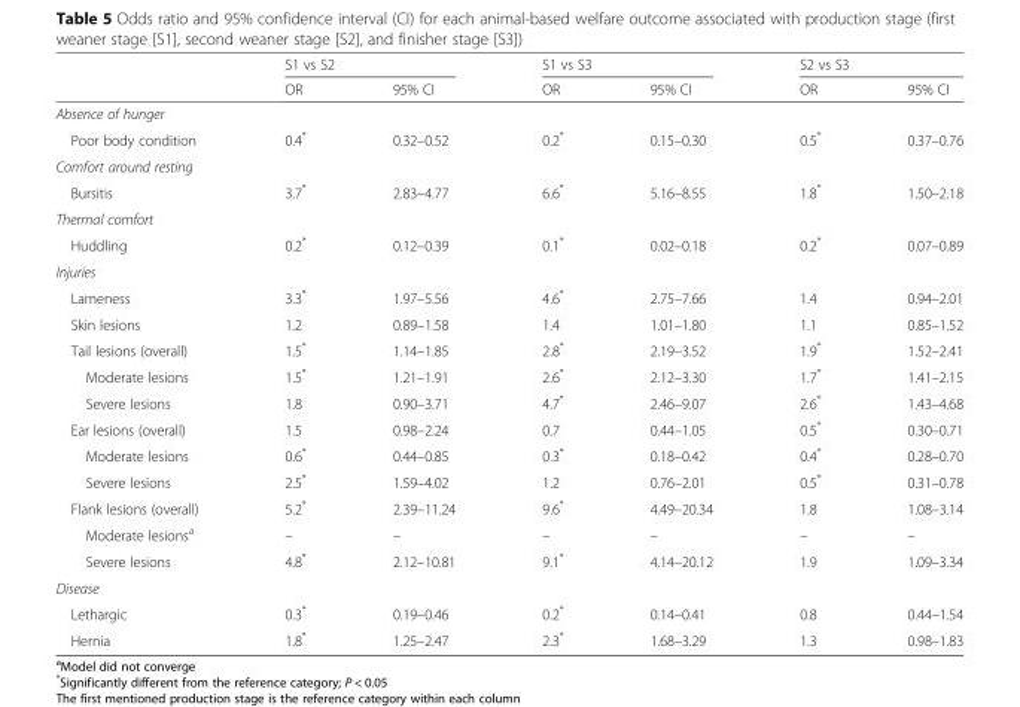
<table><thead><tr><td rowspan="2"></td><td colspan="2">S1 vs S2</td><td colspan="2">S1 vs S3</td><td colspan="2">S2 vs S3</td></tr><tr><td>OR</td><td>95% CI</td><td>OR</td><td>95% CI</td><td>OR</td><td>95% CI</td></tr></thead><tbody><tr><td colspan="7">Absence of hunger</td></tr><tr><td>Poor body condition</td><td>0.4*</td><td>0.32–0.52</td><td>0.2*</td><td>0.15–0.30</td><td>0.5*</td><td>0.37–0.76</td></tr><tr><td colspan="7">Comfort around resting</td></tr><tr><td>Bursitis</td><td>3.7*</td><td>2.83–4.77</td><td>6.6*</td><td>5.16–8.55</td><td>1.8*</td><td>1.50–2.18</td></tr><tr><td colspan="7">Thermal comfort</td></tr><tr><td>Huddling</td><td>0.2*</td><td>0.12–0.39</td><td>0.1*</td><td>0.02–0.18</td><td>0.2*</td><td>0.07–0.89</td></tr><tr><td colspan="7">Injuries</td></tr><tr><td>Lameness</td><td>3.3*</td><td>1.97–5.56</td><td>4.6*</td><td>2.75–7.66</td><td>1.4</td><td>0.94–2.01</td></tr><tr><td>Skin lesions</td><td>1.2</td><td>0.89–1.58</td><td>1.4</td><td>1.01–1.80</td><td>1.1</td><td>0.85–1.52</td></tr><tr><td>Tail lesions (overall)</td><td>1.5*</td><td>1.14–1.85</td><td>2.8*</td><td>2.19–3.52</td><td>1.9*</td><td>1.52–2.41</td></tr><tr><td>Moderate lesions</td><td>1.5*</td><td>1.21–1.91</td><td>2.6*</td><td>2.12–3.30</td><td>1.7*</td><td>1.41–2.15</td></tr><tr><td>Severe lesions</td><td>1.8</td><td>0.90–3.71</td><td>4.7*</td><td>2.46–9.07</td><td>2.6*</td><td>1.43–4.68</td></tr><tr><td>Ear lesions (overall)</td><td>1.5</td><td>0.98–2.24</td><td>0.7</td><td>0.44–1.05</td><td>0.5*</td><td>0.30–0.71</td></tr><tr><td>Moderate lesions</td><td>0.6*</td><td>0.44–0.85</td><td>0.3*</td><td>0.18–0.42</td><td>0.4*</td><td>0.28–0.70</td></tr><tr><td>Severe lesions</td><td>2.5*</td><td>1.59–4.02</td><td>1.2</td><td>0.76–2.01</td><td>0.5*</td><td>0.31–0.78</td></tr><tr><td>Flank lesions (overall)</td><td>5.2*</td><td>2.39–11.24</td><td>9.6*</td><td>4.49–20.34</td><td>1.8</td><td>1.08–3.14</td></tr><tr><td>Moderate lesions<sup>a</sup></td><td>–</td><td>–</td><td>–</td><td>–</td><td>–</td><td>–</td></tr><tr><td>Severe lesions</td><td>4.8*</td><td>2.12–10.81</td><td>9.1*</td><td>4.14–20.12</td><td>1.9</td><td>1.09–3.34</td></tr><tr><td colspan="7">Disease</td></tr><tr><td>Lethargic</td><td>0.3*</td><td>0.19–0.46</td><td>0.2*</td><td>0.14–0.41</td><td>0.8</td><td>0.44–1.54</td></tr><tr><td>Hernia</td><td>1.8*</td><td>1.25–2.47</td><td>2.3*</td><td>1.68–3.29</td><td>1.3</td><td>0.98–1.83</td></tr></tbody></table>